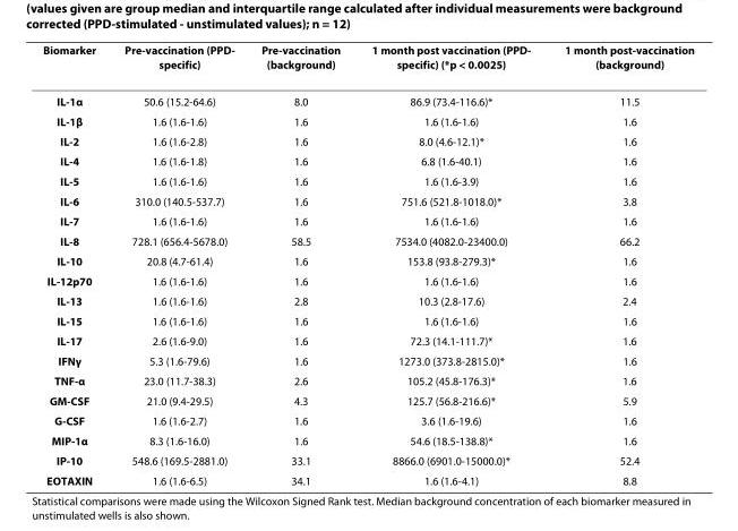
<table><thead><tr><td>Biomarker</td><td>Pre-vaccination (PPD- specific)</td><td>Pre-vaccination (background)</td><td>1 month post vaccination (PPD- specific) (*p &lt; 0.0025)</td><td>1 month post-vaccination (background)</td></tr></thead><tbody><tr><td>IL-1α</td><td>50.6 (15.2-64.6)</td><td>8.0</td><td>86.9 (73.4-116.6)*</td><td>11.5</td></tr><tr><td>IL-1β</td><td>1.6 (1.6-1.6)</td><td>1.6</td><td>1.6 (1.6-1.6)</td><td>1.6</td></tr><tr><td>IL-2</td><td>1.6 (1.6-2.8)</td><td>1.6</td><td>8.0 (4.6-12.1)*</td><td>1.6</td></tr><tr><td>IL-4</td><td>1.6 (1.6-1.8)</td><td>1.6</td><td>6.8 (1.6-40.1)</td><td>1.6</td></tr><tr><td>IL-5</td><td>1.6 (1.6-1.6)</td><td>1.6</td><td>1.6 (1.6-3.9)</td><td>1.6</td></tr><tr><td>IL-6</td><td>310.0 (140.5-537.7)</td><td>1.6</td><td>751.6 (521.8-1018.0)*</td><td>3.8</td></tr><tr><td>IL-7</td><td>1.6 (1.6-1.6)</td><td>1.6</td><td>1.6 (1.6-1.6)</td><td>1.6</td></tr><tr><td>IL-8</td><td>728.1 (656.4-5678.0)</td><td>58.5</td><td>7534.0 (4082.0-23400.0)</td><td>66.2</td></tr><tr><td>IL-10</td><td>20.8 (4.7-61.4)</td><td>1.6</td><td>153.8 (93.8-279.3)*</td><td>1.6</td></tr><tr><td>IL-12p70</td><td>1.6 (1.6-1.6)</td><td>1.6</td><td>1.6 (1.6-1.6)</td><td>1.6</td></tr><tr><td>IL-13</td><td>1.6 (1.6-1.6)</td><td>2.8</td><td>10.3 (2.8-17.6)</td><td>2.4</td></tr><tr><td>IL-15</td><td>1.6 (1.6-1.6)</td><td>1.6</td><td>1.6 (1.6-1.6)</td><td>1.6</td></tr><tr><td>IL-17</td><td>2.6 (1.6-9.0)</td><td>1.6</td><td>72.3 (14.1-111.7)*</td><td>1.6</td></tr><tr><td>IFNγ</td><td>5.3 (1.6-79.6)</td><td>1.6</td><td>1273.0 (373.8-2815.0)*</td><td>1.6</td></tr><tr><td>TNF-α</td><td>23.0 (11.7-38.3)</td><td>2.6</td><td>105.2 (45.8-176.3)*</td><td>1.6</td></tr><tr><td>GM-CSF</td><td>21.0 (9.4-29.5)</td><td>4.3</td><td>125.7 (56.8-216.6)*</td><td>5.9</td></tr><tr><td>G-CSF</td><td>1.6 (1.6-2.7)</td><td>1.6</td><td>3.6 (1.6-19.6)</td><td>1.6</td></tr><tr><td>MIP-1α</td><td>8.3 (1.6-16.0)</td><td>1.6</td><td>54.6 (18.5-138.8)*</td><td>1.6</td></tr><tr><td>IP-10</td><td>548.6 (169.5-2881.0)</td><td>33.1</td><td>8866.0 (6901.0-15000.0)*</td><td>52.4</td></tr><tr><td>EOTAXIN</td><td>1.6 (1.6-6.5)</td><td>34.1</td><td>1.6 (1.6-4.1)</td><td>8.8</td></tr></tbody></table>